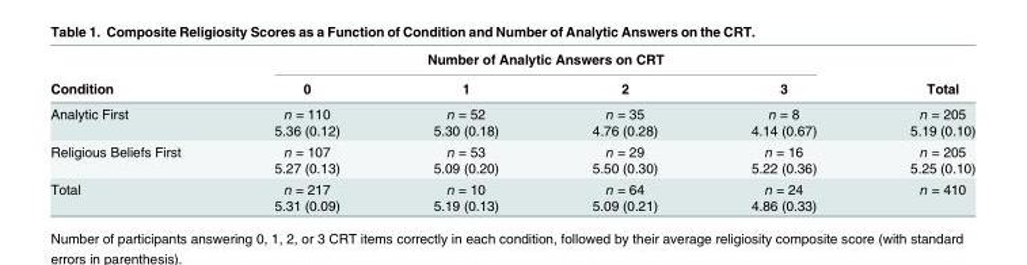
<table><thead><tr><td rowspan="2">Condition</td><td colspan="4">Number of Analytic Answers on CRT</td><td rowspan="2">Total</td></tr><tr><td>0</td><td>1</td><td>2</td><td>3</td></tr></thead><tbody><tr><td>Analytic First</td><td>n = 110 5.36 (0.12)</td><td>n = 52 5.30 (0.18)</td><td>n = 35 4.76 (0.28)</td><td>n = 8 4.14 (0.67)</td><td>n = 205 5.19 (0.10)</td></tr><tr><td>Religious Beliefs First</td><td>n = 107 5.27 (0.13)</td><td>n = 53 5.09 (0.20)</td><td>n = 29 5.50 (0.30)</td><td>n = 16 5.22 (0.36)</td><td>n = 205 5.25 (0.10)</td></tr><tr><td>Total</td><td>n = 217 5.31 (0.09)</td><td>n = 10 5.19 (0.13)</td><td>n = 64 5.09 (0.21)</td><td>n = 24 4.86 (0.33)</td><td>n = 410</td></tr></tbody></table>